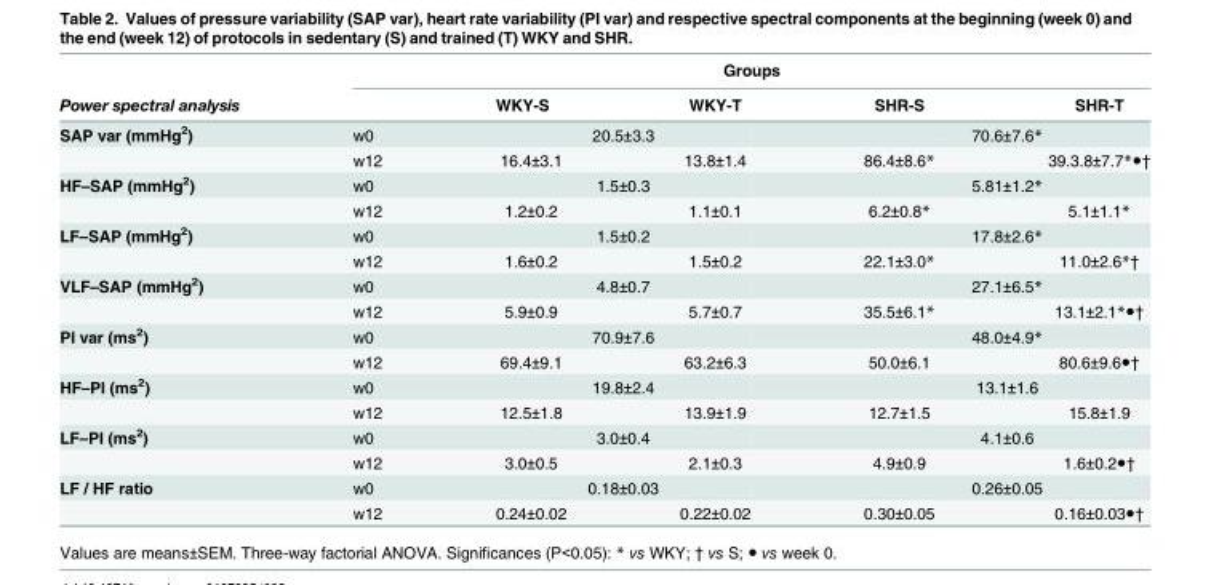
<table><thead><tr><td rowspan="2">Power spectral analysis</td><td colspan="5">Groups</td></tr><tr><td></td><td>WKY-S</td><td>WKY-T</td><td>SHR-S</td><td>SHR-T</td></tr></thead><tbody><tr><td rowspan="2">SAP var (mmHg<sup>2</sup>)</td><td>w0</td><td colspan="2">20.5±3.3</td><td colspan="2">70.6±7.6*</td></tr><tr><td>w12</td><td>16.4±3.1</td><td>13.8±1.4</td><td>86.4±8.6*</td><td>39.3.8±7.7*●†</td></tr><tr><td rowspan="2">HF–SAP (mmHg<sup>2</sup>)</td><td>w0</td><td colspan="2">1.5±0.3</td><td colspan="2">5.81±1.2*</td></tr><tr><td>w12</td><td>1.2±0.2</td><td>1.1±0.1</td><td>6.2±0.8*</td><td>5.1±1.1*</td></tr><tr><td rowspan="2">LF–SAP (mmHg<sup>2</sup>)</td><td>w0</td><td colspan="2">1.5±0.2</td><td colspan="2">17.8±2.6*</td></tr><tr><td>w12</td><td>1.6±0.2</td><td>1.5±0.2</td><td>22.1±3.0*</td><td>11.0±2.6*†</td></tr><tr><td rowspan="2">VLF–SAP (mmHg<sup>2</sup>)</td><td>w0</td><td colspan="2">4.8±0.7</td><td colspan="2">27.1±6.5*</td></tr><tr><td>w12</td><td>5.9±0.9</td><td>5.7±0.7</td><td>35.5±6.1*</td><td>13.1±2.1*●†</td></tr><tr><td rowspan="2">PI var (ms<sup>2</sup>)</td><td>w0</td><td colspan="2">70.9±7.6</td><td colspan="2">48.0±4.9*</td></tr><tr><td>w12</td><td>69.4±9.1</td><td>63.2±6.3</td><td>50.0±6.1</td><td>80.6±9.6●†</td></tr><tr><td rowspan="2">HF–PI (ms<sup>2</sup>)</td><td>w0</td><td colspan="2">19.8±2.4</td><td colspan="2">13.1±1.6</td></tr><tr><td>w12</td><td>12.5±1.8</td><td>13.9±1.9</td><td>12.7±1.5</td><td>15.8±1.9</td></tr><tr><td rowspan="2">LF–PI (ms<sup>2</sup>)</td><td>w0</td><td colspan="2">3.0±0.4</td><td colspan="2">4.1±0.6</td></tr><tr><td>w12</td><td>3.0±0.5</td><td>2.1±0.3</td><td>4.9±0.9</td><td>1.6±0.2●†</td></tr><tr><td rowspan="2">LF / HF ratio</td><td>w0</td><td colspan="2">0.18±0.03</td><td colspan="2">0.26±0.05</td></tr><tr><td>w12</td><td>0.24±0.02</td><td>0.22±0.02</td><td>0.30±0.05</td><td>0.16±0.03●†</td></tr></tbody></table>